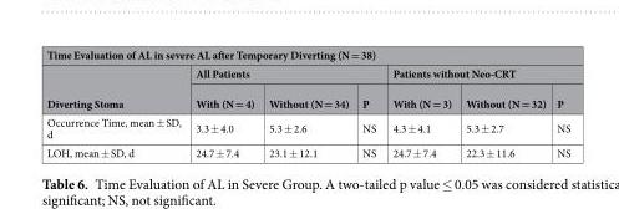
<table><thead><tr><td colspan="7">Time Evaluation of AL in severe AL after Temporary Diverting (N = 38)</td></tr><tr><td rowspan="2">Diverting Stoma</td><td colspan="3">All Patients</td><td colspan="3">Patients without Neo-CRT</td></tr><tr><td>With (N = 4)</td><td>Without (N = 34)</td><td>P</td><td>With (N = 3)</td><td>Without (N = 32)</td><td>P</td></tr></thead><tbody><tr><td>Occurrence Time, mean ± SD, d</td><td>3.3 ± 4.0</td><td>5.3 ± 2.6</td><td>NS</td><td>4.3 ± 4.1</td><td>5.3 ± 2.7</td><td>NS</td></tr><tr><td>LOH, mean ± SD, d</td><td>24.7 ± 7.4</td><td>23.1 ± 12.1</td><td>NS</td><td>24.7 ± 7.4</td><td>22.3 ± 11.6</td><td>NS</td></tr></tbody></table>